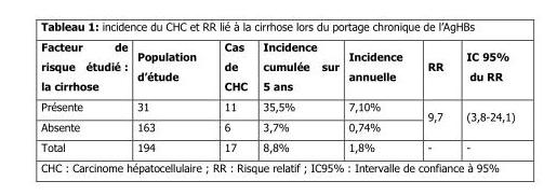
<table><thead><tr><td>Facteur de risque étudié : la cirrhose</td><td>Population d’étude</td><td>Cas de CHC</td><td>Incidence cumulée sur 5 ans</td><td>Incidence annuelle</td><td>RR</td><td>IC 95% du RR</td></tr></thead><tbody><tr><td>Présente</td><td>31</td><td>11</td><td>35,5%</td><td>7,10%</td><td rowspan="2">9,7</td><td rowspan="2">(3,8-24,1)</td></tr><tr><td>Absente</td><td>163</td><td>6</td><td>3,7%</td><td>0,74%</td></tr><tr><td>Total</td><td>194</td><td>17</td><td>8,8%</td><td>1,8%</td><td>-</td><td>-</td></tr></tbody></table>